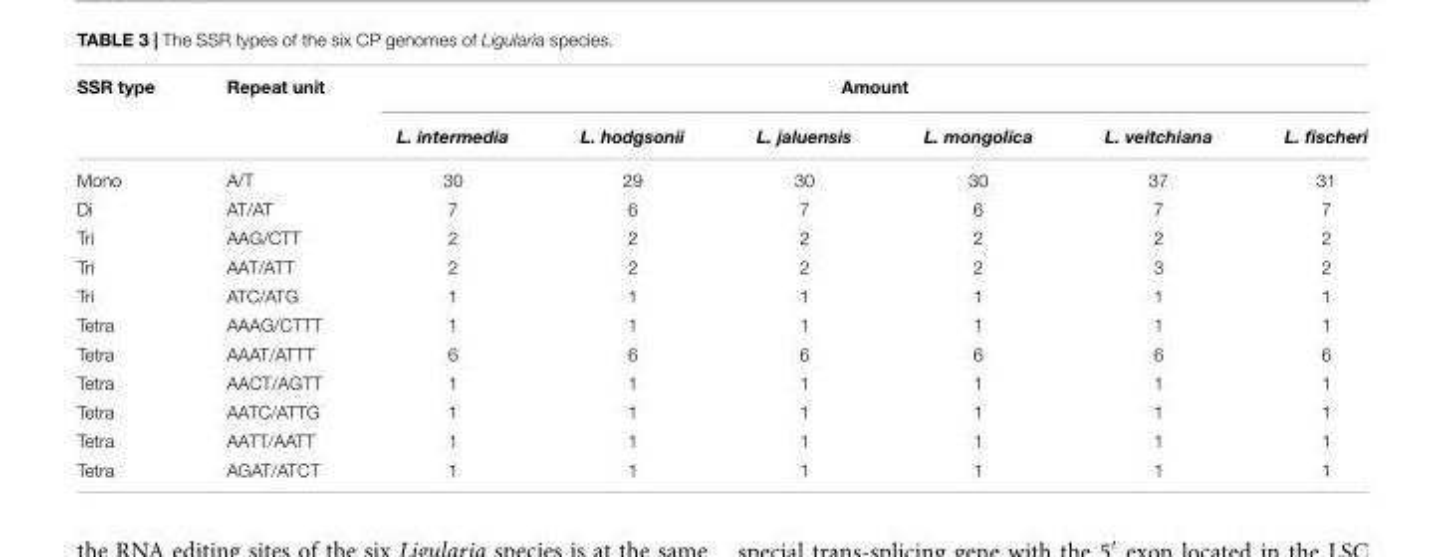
<table><thead><tr><td rowspan="2">SSR type</td><td rowspan="2">Repeat unit</td><td colspan="6">Amount</td></tr><tr><td>L. intermedia</td><td>L. hodgsonii</td><td>L. jaluensis</td><td>L. mongolica</td><td>L. veitchiana</td><td>L. fischeri</td></tr></thead><tbody><tr><td>Mono</td><td>A/T</td><td>30</td><td>29</td><td>30</td><td>30</td><td>37</td><td>31</td></tr><tr><td>Di</td><td>AT/AT</td><td>7</td><td>6</td><td>7</td><td>6</td><td>7</td><td>7</td></tr><tr><td>Tri</td><td>AAG/CTT</td><td>2</td><td>2</td><td>2</td><td>2</td><td>2</td><td>2</td></tr><tr><td>Tri</td><td>AAT/ATT</td><td>2</td><td>2</td><td>2</td><td>2</td><td>3</td><td>2</td></tr><tr><td>Tri</td><td>ATC/ATG</td><td>1</td><td>1</td><td>1</td><td>1</td><td>1</td><td>1</td></tr><tr><td>Tetra</td><td>AAAG/CTTT</td><td>1</td><td>1</td><td>1</td><td>1</td><td>1</td><td>1</td></tr><tr><td>Tetra</td><td>AAAT/ATTT</td><td>6</td><td>6</td><td>6</td><td>6</td><td>6</td><td>6</td></tr><tr><td>Tetra</td><td>AACT/AGTT</td><td>1</td><td>1</td><td>1</td><td>1</td><td>1</td><td>1</td></tr><tr><td>Tetra</td><td>AATC/ATTG</td><td>1</td><td>1</td><td>1</td><td>1</td><td>1</td><td>1</td></tr><tr><td>Tetra</td><td>AATT/AATT</td><td>1</td><td>1</td><td>1</td><td>1</td><td>1</td><td>1</td></tr><tr><td>Tetra</td><td>AGAT/ATCT</td><td>1</td><td>1</td><td>1</td><td>1</td><td>1</td><td>1</td></tr></tbody></table>